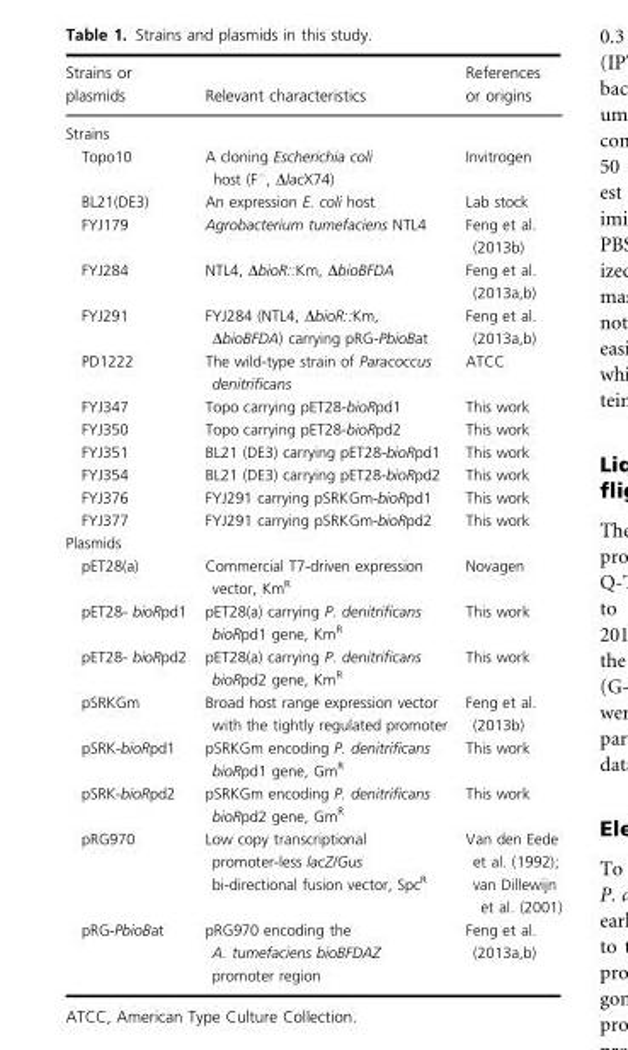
<table><thead><tr><td>Strains or plasmids</td><td>Relevant characteristics</td><td>References or origins</td></tr></thead><tbody><tr><td colspan="3">Strains</td></tr><tr><td>Topo10</td><td>A cloning Escherichia coli host (F<sup>−</sup>, ΔlacX74)</td><td>Invitrogen</td></tr><tr><td>BL21(DE3)</td><td>An expression E. coli host</td><td>Lab stock</td></tr><tr><td>FYJ179</td><td>Agrobacterium tumefaciens NTL4</td><td>Feng et al. (2013b)</td></tr><tr><td>FYJ284</td><td>NTL4, ΔbioR::Km, ΔbioBFDA</td><td>Feng et al. (2013a,b)</td></tr><tr><td>FYJ291</td><td>FYJ284 (NTL4, ΔbioR::Km, ΔbioBFDA) carrying pRG-PbioBat</td><td>Feng et al. (2013a,b)</td></tr><tr><td>PD1222</td><td>The wild-type strain of Paracoccus denitrificans</td><td>ATCC</td></tr><tr><td>FYJ347</td><td>Topo carrying pET28-bioRpd1</td><td>This work</td></tr><tr><td>FYJ350</td><td>Topo carrying pET28-bioRpd2</td><td>This work</td></tr><tr><td>FYJ351</td><td>BL21 (DE3) carrying pET28-bioRpd1</td><td>This work</td></tr><tr><td>FYJ354</td><td>BL21 (DE3) carrying pET28-bioRpd2</td><td>This work</td></tr><tr><td>FYJ376</td><td>FYJ291 carrying pSRKGm-bioRpd1</td><td>This work</td></tr><tr><td>FYJ377</td><td>FYJ291 carrying pSRKGm-bioRpd2</td><td>This work</td></tr><tr><td colspan="3">Plasmids</td></tr><tr><td>pET28(a)</td><td>Commercial T7-driven expression vector, Km<sup>R</sup></td><td>Novagen</td></tr><tr><td>pET28- bioRpd1</td><td>pET28(a) carrying P. denitrificans bioRpd1 gene, Km<sup>R</sup></td><td>This work</td></tr><tr><td>pET28- bioRpd2</td><td>pET28(a) carrying P. denitrificans bioRpd2 gene, Km<sup>R</sup></td><td>This work</td></tr><tr><td>pSRKGm</td><td>Broad host range expression vector with the tightly regulated promoter</td><td>Feng et al. (2013b)</td></tr><tr><td>pSRK-bioRpd1</td><td>pSRKGm encoding P. denitrificans bioRpd1 gene, Gm<sup>R</sup></td><td>This work</td></tr><tr><td>pSRK-bioRpd2</td><td>pSRKGm encoding P. denitrificans bioRpd2 gene, Gm<sup>R</sup></td><td>This work</td></tr><tr><td>pRG970</td><td>Low copy transcriptional promoter-less lacZ/Gus bi-directional fusion vector, Spc<sup>R</sup></td><td>Van den Eede et al. (1992); van Dillewijn et al. (2001)</td></tr><tr><td>pRG-PbioBat</td><td>pRG970 encoding the A. tumefaciens bioBFDAZ promoter region</td><td>Feng et al. (2013a,b)</td></tr></tbody></table>